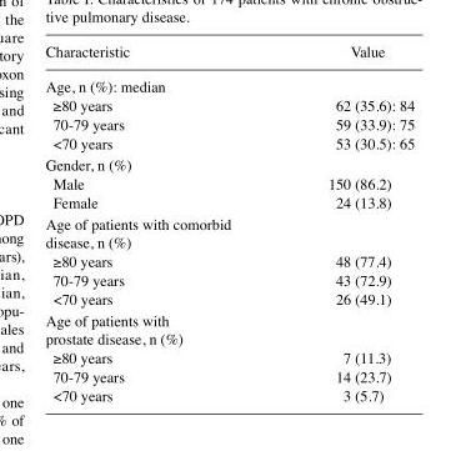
<table><thead><tr><td>Characteristic</td><td>Value</td></tr></thead><tbody><tr><td colspan="2">Age, n (%): median</td></tr><tr><td>≥80 years</td><td>62 (35.6): 84</td></tr><tr><td>70-79 years</td><td>59 (33.9): 75</td></tr><tr><td>&lt;70 years</td><td>53 (30.5): 65</td></tr><tr><td colspan="2">Gender, n (%)</td></tr><tr><td>Male</td><td>150 (86.2)</td></tr><tr><td>Female</td><td>24 (13.8)</td></tr><tr><td colspan="2">Age of patients with comorbid disease, n (%)</td></tr><tr><td>≥80 years</td><td>48 (77.4)</td></tr><tr><td>70-79 years</td><td>43 (72.9)</td></tr><tr><td>&lt;70 years</td><td>26 (49.1)</td></tr><tr><td colspan="2">Age of patients with prostate disease, n (%)</td></tr><tr><td>≥80 years</td><td>7 (11.3)</td></tr><tr><td>70-79 years</td><td>14 (23.7)</td></tr><tr><td>&lt;70 years</td><td>3 (5.7)</td></tr></tbody></table>